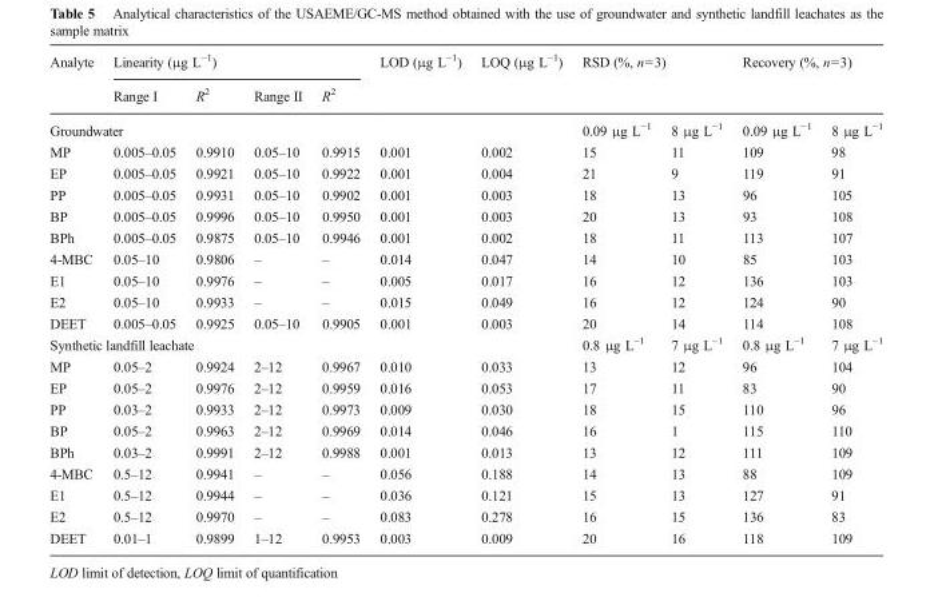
<table><thead><tr><td rowspan="2">Analyte</td><td colspan="4">Linearity (μg L<sup>−1</sup>)</td><td rowspan="3">LOD (μg L<sup>−1</sup>)</td><td rowspan="3">LOQ (μg L<sup>−1</sup>)</td><td rowspan="2" colspan="2">RSD (%, n=3)</td><td rowspan="2" colspan="2">Recovery (%, n=3)</td></tr><tr><td>Range I</td><td>R<sup>2</sup></td><td>Range II</td><td>R<sup>2</sup></td></tr><tr><td colspan="5">Groundwater</td><td>0.09 μg L<sup>−1</sup></td><td>8 μg L<sup>−1</sup></td><td>0.09 μg L<sup>−1</sup></td><td>8 μg L<sup>−1</sup></td></tr></thead><tbody><tr><td>MP</td><td>0.005–0.05</td><td>0.9910</td><td>0.05–10</td><td>0.9915</td><td>0.001</td><td>0.002</td><td>15</td><td>11</td><td>109</td><td>98</td></tr><tr><td>EP</td><td>0.005–0.05</td><td>0.9921</td><td>0.05–10</td><td>0.9922</td><td>0.001</td><td>0.004</td><td>21</td><td>9</td><td>119</td><td>91</td></tr><tr><td>PP</td><td>0.005–0.05</td><td>0.9931</td><td>0.05–10</td><td>0.9902</td><td>0.001</td><td>0.003</td><td>18</td><td>13</td><td>96</td><td>105</td></tr><tr><td>BP</td><td>0.005–0.05</td><td>0.9996</td><td>0.05–10</td><td>0.9950</td><td>0.001</td><td>0.003</td><td>20</td><td>13</td><td>93</td><td>108</td></tr><tr><td>BPh</td><td>0.005–0.05</td><td>0.9875</td><td>0.05–10</td><td>0.9946</td><td>0.001</td><td>0.002</td><td>18</td><td>11</td><td>113</td><td>107</td></tr><tr><td>4-MBC</td><td>0.05–10</td><td>0.9806</td><td>–</td><td>–</td><td>0.014</td><td>0.047</td><td>14</td><td>10</td><td>85</td><td>103</td></tr><tr><td>E1</td><td>0.05–10</td><td>0.9976</td><td>–</td><td>–</td><td>0.005</td><td>0.017</td><td>16</td><td>12</td><td>136</td><td>103</td></tr><tr><td>E2</td><td>0.05–10</td><td>0.9933</td><td>–</td><td>–</td><td>0.015</td><td>0.049</td><td>16</td><td>12</td><td>124</td><td>90</td></tr><tr><td>DEET</td><td>0.005–0.05</td><td>0.9925</td><td>0.05–10</td><td>0.9905</td><td>0.001</td><td>0.003</td><td>20</td><td>14</td><td>114</td><td>108</td></tr><tr><td colspan="7">Synthetic landfill leachate</td><td>0.8 μg L<sup>−1</sup></td><td>7 μg L<sup>−1</sup></td><td>0.8 μg L<sup>−1</sup></td><td>7 μg L<sup>−1</sup></td></tr><tr><td>MP</td><td>0.05–2</td><td>0.9924</td><td>2–12</td><td>0.9967</td><td>0.010</td><td>0.033</td><td>13</td><td>12</td><td>96</td><td>104</td></tr><tr><td>EP</td><td>0.05–2</td><td>0.9976</td><td>2–12</td><td>0.9959</td><td>0.016</td><td>0.053</td><td>17</td><td>11</td><td>83</td><td>90</td></tr><tr><td>PP</td><td>0.03–2</td><td>0.9933</td><td>2–12</td><td>0.9973</td><td>0.009</td><td>0.030</td><td>18</td><td>15</td><td>110</td><td>96</td></tr><tr><td>BP</td><td>0.05–2</td><td>0.9963</td><td>2–12</td><td>0.9969</td><td>0.014</td><td>0.046</td><td>16</td><td>1</td><td>115</td><td>110</td></tr><tr><td>BPh</td><td>0.03–2</td><td>0.9991</td><td>2–12</td><td>0.9988</td><td>0.001</td><td>0.013</td><td>13</td><td>12</td><td>111</td><td>109</td></tr><tr><td>4-MBC</td><td>0.5–12</td><td>0.9941</td><td>–</td><td>–</td><td>0.056</td><td>0.188</td><td>14</td><td>13</td><td>88</td><td>109</td></tr><tr><td>E1</td><td>0.5–12</td><td>0.9944</td><td>–</td><td>–</td><td>0.036</td><td>0.121</td><td>15</td><td>13</td><td>127</td><td>91</td></tr><tr><td>E2</td><td>0.5–12</td><td>0.9970</td><td>–</td><td>–</td><td>0.083</td><td>0.278</td><td>16</td><td>15</td><td>136</td><td>83</td></tr><tr><td>DEET</td><td>0.01–1</td><td>0.9899</td><td>1–12</td><td>0.9953</td><td>0.003</td><td>0.009</td><td>20</td><td>16</td><td>118</td><td>109</td></tr></tbody></table>